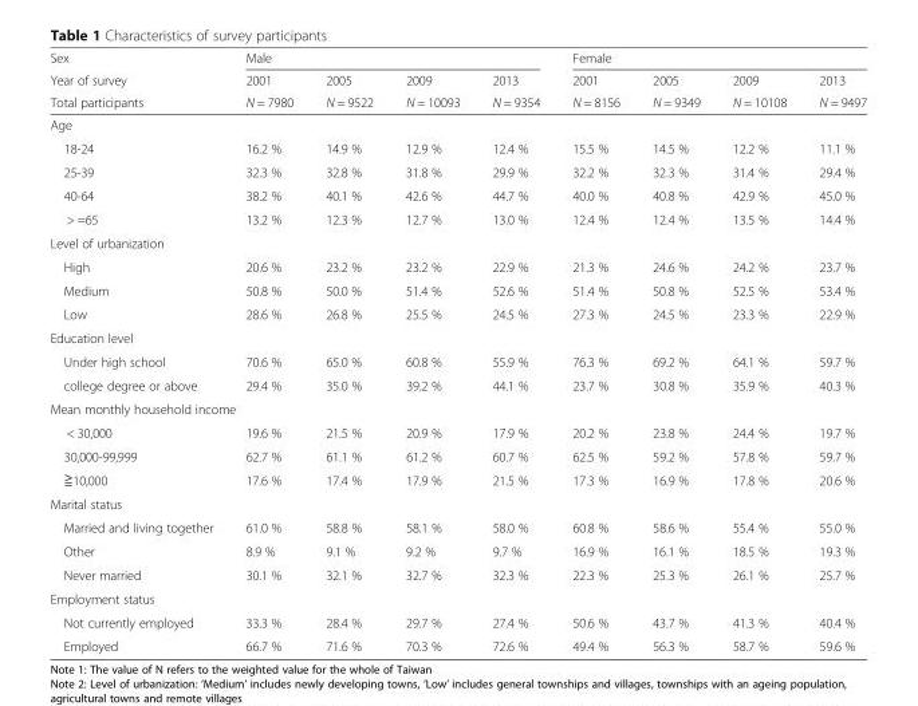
<table><thead><tr><td rowspan="3">Sex Year of survey Total participants</td><td colspan="4">Male</td><td colspan="4">Female</td></tr><tr><td rowspan="2">2001 N = 7980</td><td rowspan="2">2005 N = 9522</td><td rowspan="2">2009 N = 10093</td><td rowspan="2">2013 N = 9354</td><td rowspan="2">2001 N = 8156</td><td rowspan="2">2005 N = 9349</td><td rowspan="2">2009 N = 10108</td><td rowspan="2">2013 N = 9497</td></tr><tr></tr></thead><tbody><tr><td colspan="9">Age</td></tr><tr><td>18-24</td><td>16.2 %</td><td>14.9 %</td><td>12.9 %</td><td>12.4 %</td><td>15.5 %</td><td>14.5 %</td><td>12.2 %</td><td>11.1 %</td></tr><tr><td>25-39</td><td>32.3 %</td><td>32.8 %</td><td>31.8 %</td><td>29.9 %</td><td>32.2 %</td><td>32.3 %</td><td>31.4 %</td><td>29.4 %</td></tr><tr><td>40-64</td><td>38.2 %</td><td>40.1 %</td><td>42.6 %</td><td>44.7 %</td><td>40.0 %</td><td>40.8 %</td><td>42.9 %</td><td>45.0 %</td></tr><tr><td>&gt; =65</td><td>13.2 %</td><td>12.3 %</td><td>12.7 %</td><td>13.0 %</td><td>12.4 %</td><td>12.4 %</td><td>13.5 %</td><td>14.4 %</td></tr><tr><td colspan="9">Level of urbanization</td></tr><tr><td>High</td><td>20.6 %</td><td>23.2 %</td><td>23.2 %</td><td>22.9 %</td><td>21.3 %</td><td>24.6 %</td><td>24.2 %</td><td>23.7 %</td></tr><tr><td>Medium</td><td>50.8 %</td><td>50.0 %</td><td>51.4 %</td><td>52.6 %</td><td>51.4 %</td><td>50.8 %</td><td>52.5 %</td><td>53.4 %</td></tr><tr><td>Low</td><td>28.6 %</td><td>26.8 %</td><td>25.5 %</td><td>24.5 %</td><td>27.3 %</td><td>24.5 %</td><td>23.3 %</td><td>22.9 %</td></tr><tr><td colspan="9">Education level</td></tr><tr><td>Under high school</td><td>70.6 %</td><td>65.0 %</td><td>60.8 %</td><td>55.9 %</td><td>76.3 %</td><td>69.2 %</td><td>64.1 %</td><td>59.7 %</td></tr><tr><td>college degree or above</td><td>29.4 %</td><td>35.0 %</td><td>39.2 %</td><td>44.1 %</td><td>23.7 %</td><td>30.8 %</td><td>35.9 %</td><td>40.3 %</td></tr><tr><td colspan="9">Mean monthly household income</td></tr><tr><td>&lt; 30,000</td><td>19.6 %</td><td>21.5 %</td><td>20.9 %</td><td>17.9 %</td><td>20.2 %</td><td>23.8 %</td><td>24.4 %</td><td>19.7 %</td></tr><tr><td>30,000-99,999</td><td>62.7 %</td><td>61.1 %</td><td>61.2 %</td><td>60.7 %</td><td>62.5 %</td><td>59.2 %</td><td>57.8 %</td><td>59.7 %</td></tr><tr><td>≧10,000</td><td>17.6 %</td><td>17.4 %</td><td>17.9 %</td><td>21.5 %</td><td>17.3 %</td><td>16.9 %</td><td>17.8 %</td><td>20.6 %</td></tr><tr><td colspan="9">Marital status</td></tr><tr><td>Married and living together</td><td>61.0 %</td><td>58.8 %</td><td>58.1 %</td><td>58.0 %</td><td>60.8 %</td><td>58.6 %</td><td>55.4 %</td><td>55.0 %</td></tr><tr><td>Other</td><td>8.9 %</td><td>9.1 %</td><td>9.2 %</td><td>9.7 %</td><td>16.9 %</td><td>16.1 %</td><td>18.5 %</td><td>19.3 %</td></tr><tr><td>Never married</td><td>30.1 %</td><td>32.1 %</td><td>32.7 %</td><td>32.3 %</td><td>22.3 %</td><td>25.3 %</td><td>26.1 %</td><td>25.7 %</td></tr><tr><td colspan="9">Employment status</td></tr><tr><td>Not currently employed</td><td>33.3 %</td><td>28.4 %</td><td>29.7 %</td><td>27.4 %</td><td>50.6 %</td><td>43.7 %</td><td>41.3 %</td><td>40.4 %</td></tr><tr><td>Employed</td><td>66.7 %</td><td>71.6 %</td><td>70.3 %</td><td>72.6 %</td><td>49.4 %</td><td>56.3 %</td><td>58.7 %</td><td>59.6 %</td></tr></tbody></table>